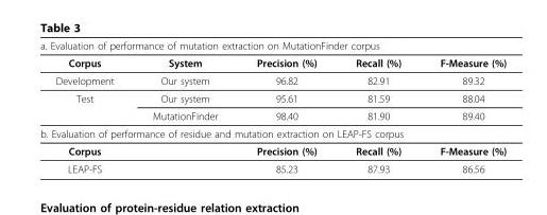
<table><thead><tr><td colspan="5">a. Evaluation of performance of mutation extraction on MutationFinder corpus</td></tr><tr><td>Corpus</td><td>System</td><td>Precision (%)</td><td>Recall (%)</td><td>F-Measure (%)</td></tr></thead><tbody><tr><td>Development</td><td>Our system</td><td>96.82</td><td>82.91</td><td>89.32</td></tr><tr><td rowspan="2">Test</td><td>Our system</td><td>95.61</td><td>81.59</td><td>88.04</td></tr><tr><td>MutationFinder</td><td>98.40</td><td>81.90</td><td>89.40</td></tr><tr><td colspan="5">b. Evaluation of performance of residue and mutation extraction on LEAP-FS corpus</td></tr><tr><td>Corpus</td><td></td><td>Precision (%)</td><td>Recall (%)</td><td>F-Measure (%)</td></tr><tr><td>LEAP-FS</td><td></td><td>85.23</td><td>87.93</td><td>86.56</td></tr></tbody></table>